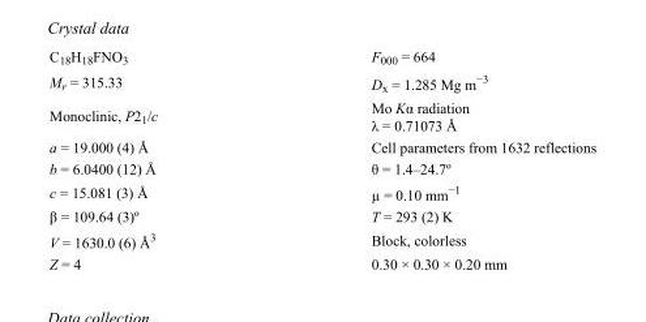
<table><tbody><tr><td>C<sub>18</sub>H<sub>18</sub>FNO<sub>3</sub></td><td>F<sub>000</sub> = 664</td></tr><tr><td>M<sub>r</sub> = 315.33</td><td>D<sub>x</sub> = 1.285 Mg m<sup>−3</sup></td></tr><tr><td>Monoclinic, P2<sub>1</sub>/c</td><td>Mo Kα radiation λ = 0.71073 Å</td></tr><tr><td>a = 19.000 (4) Å</td><td>Cell parameters from 1632 reflections</td></tr><tr><td>b = 6.0400 (12) Å</td><td>θ = 1.4–24.7º</td></tr><tr><td>c = 15.081 (3) Å</td><td>µ = 0.10 mm<sup>−1</sup></td></tr><tr><td>β = 109.64 (3)º</td><td>T = 293 (2) K</td></tr><tr><td>V = 1630.0 (6) Å<sup>3</sup></td><td>Block, colorless</td></tr><tr><td>Z = 4</td><td>0.30 × 0.30 × 0.20 mm</td></tr></tbody></table>